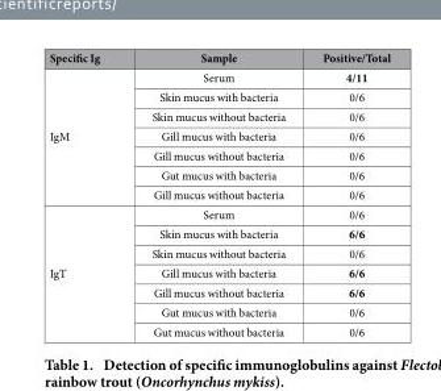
<table><thead><tr><td>Specific Ig</td><td>Sample</td><td>Positive/Total</td></tr></thead><tbody><tr><td rowspan="7">IgM</td><td>Serum</td><td>4/11</td></tr><tr><td>Skin mucus with bacteria</td><td>0/6</td></tr><tr><td>Skin mucus without bacteria</td><td>0/6</td></tr><tr><td>Gill mucus with bacteria</td><td>0/6</td></tr><tr><td>Gill mucus without bacteria</td><td>0/6</td></tr><tr><td>Gut mucus with bacteria</td><td>0/6</td></tr><tr><td>Gill mucus without bacteria</td><td>0/6</td></tr><tr><td rowspan="7">IgT</td><td>Serum</td><td>0/6</td></tr><tr><td>Skin mucus with bacteria</td><td>6/6</td></tr><tr><td>Skin mucus without bacteria</td><td>0/6</td></tr><tr><td>Gill mucus with bacteria</td><td>6/6</td></tr><tr><td>Gill mucus without bacteria</td><td>6/6</td></tr><tr><td>Gut mucus with bacteria</td><td>0/6</td></tr><tr><td>Gut mucus without bacteria</td><td>0/6</td></tr></tbody></table>